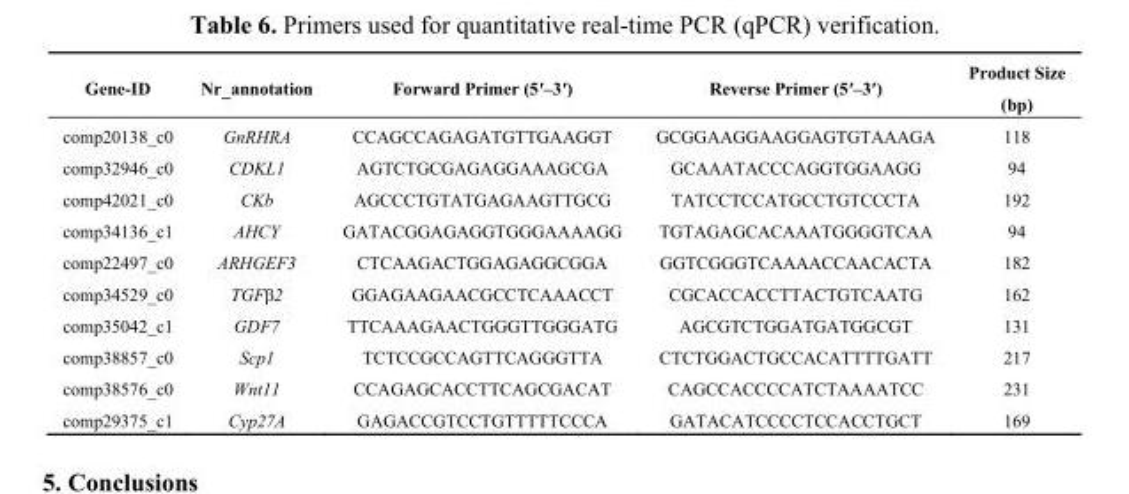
<table><thead><tr><td>Gene-ID</td><td>Nr_annotation</td><td>Forward Primer (5′–3′)</td><td>Reverse Primer (5′–3′)</td><td>Product Size (bp)</td></tr></thead><tbody><tr><td>comp20138_c0</td><td>GnRHRA</td><td>CCAGCCAGAGATGTTGAAGGT</td><td>GCGGAAGGAAGGAGTGTAAAGA</td><td>118</td></tr><tr><td>comp32946_c0</td><td>CDKL1</td><td>AGTCTGCGAGAGGAAAGCGA</td><td>GCAAATACCCAGGTGGAAGG</td><td>94</td></tr><tr><td>comp42021_c0</td><td>CKb</td><td>AGCCCTGTATGAGAAGTTGCG</td><td>TATCCTCCATGCCTGTCCCTA</td><td>192</td></tr><tr><td>comp34136_c1</td><td>AHCY</td><td>GATACGGAGAGGTGGGAAAAGG</td><td>TGTAGAGCACAAATGGGGTCAA</td><td>94</td></tr><tr><td>comp22497_c0</td><td>ARHGEF3</td><td>CTCAAGACTGGAGAGGCGGA</td><td>GGTCGGGTCAAAACCAACACTA</td><td>182</td></tr><tr><td>comp34529_c0</td><td>TGFβ2</td><td>GGAGAAGAACGCCTCAAACCT</td><td>CGCACCACCTTACTGTCAATG</td><td>162</td></tr><tr><td>comp35042_c1</td><td>GDF7</td><td>TTCAAAGAACTGGGTTGGGATG</td><td>AGCGTCTGGATGATGGCGT</td><td>131</td></tr><tr><td>comp38857_c0</td><td>Scp1</td><td>TCTCCGCCAGTTCAGGGTTA</td><td>CTCTGGACTGCCACATTTTGATT</td><td>217</td></tr><tr><td>comp38576_c0</td><td>Wnt11</td><td>CCAGAGCACCTTCAGCGACAT</td><td>CAGCCACCCCATCTAAAATCC</td><td>231</td></tr><tr><td>comp29375_c1</td><td>Cyp27A</td><td>GAGACCGTCCTGTTTTTCCCA</td><td>GATACATCCCCTCCACCTGCT</td><td>169</td></tr></tbody></table>